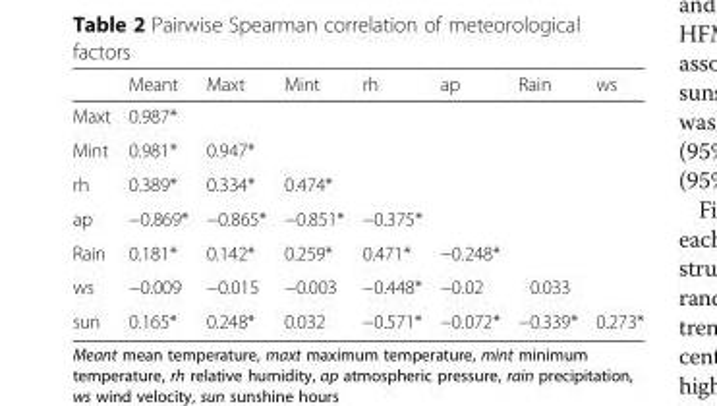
<table><thead><tr><td></td><td>Meant</td><td>Maxt</td><td>Mint</td><td>rh</td><td>ap</td><td>Rain</td><td>ws</td></tr></thead><tbody><tr><td>Maxt</td><td>0.987*</td><td></td><td></td><td></td><td></td><td></td><td></td></tr><tr><td>Mint</td><td>0.981*</td><td>0.947*</td><td></td><td></td><td></td><td></td><td></td></tr><tr><td>rh</td><td>0.389*</td><td>0.334*</td><td>0.474*</td><td></td><td></td><td></td><td></td></tr><tr><td>ap</td><td>−0.869*</td><td>−0.865*</td><td>−0.851*</td><td>−0.375*</td><td></td><td></td><td></td></tr><tr><td>Rain</td><td>0.181*</td><td>0.142*</td><td>0.259*</td><td>0.471*</td><td>−0.248*</td><td></td><td></td></tr><tr><td>ws</td><td>−0.009</td><td>−0.015</td><td>−0.003</td><td>−0.448*</td><td>−0.02</td><td>0.033</td><td></td></tr><tr><td>sun</td><td>0.165*</td><td>0.248*</td><td>0.032</td><td>−0.571*</td><td>−0.072*</td><td>−0.339*</td><td>0.273*</td></tr></tbody></table>